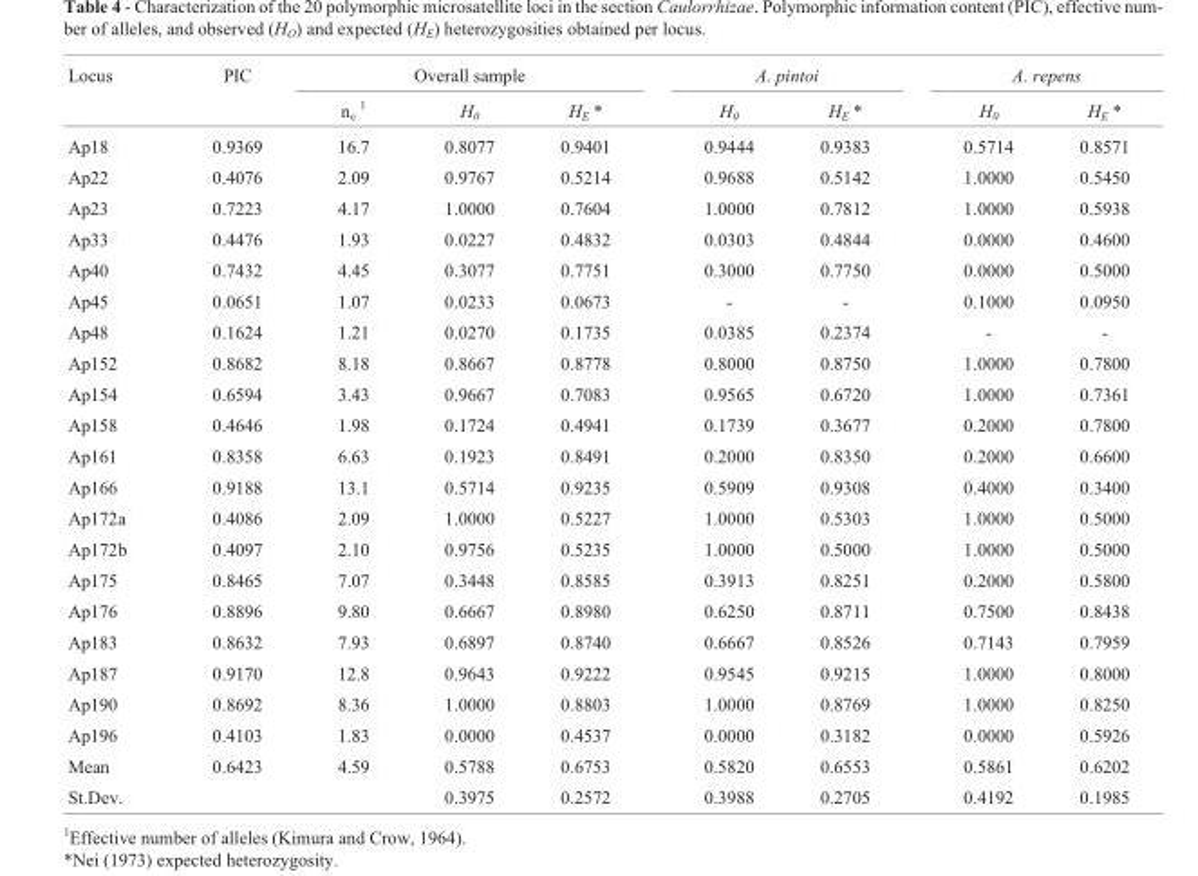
<table><thead><tr><td rowspan="2">Locus</td><td rowspan="2">PIC</td><td colspan="3">Overall sample</td><td colspan="2">A. pintoi</td><td colspan="2">A. repens</td></tr><tr><td>n<sub>e</sub> <sup>1</sup></td><td>H<sub>0</sub></td><td>H<sub>E</sub> *</td><td>H<sub>0</sub></td><td>H<sub>E</sub> *</td><td>H<sub>0</sub></td><td>H<sub>E</sub> *</td></tr></thead><tbody><tr><td>Ap18</td><td>0.9369</td><td>16.7</td><td>0.8077</td><td>0.9401</td><td>0.9444</td><td>0.9383</td><td>0.5714</td><td>0.8571</td></tr><tr><td>Ap22</td><td>0.4076</td><td>2.09</td><td>0.9767</td><td>0.5214</td><td>0.9688</td><td>0.5142</td><td>1.0000</td><td>0.5450</td></tr><tr><td>Ap23</td><td>0.7223</td><td>4.17</td><td>1.0000</td><td>0.7604</td><td>1.0000</td><td>0.7812</td><td>1.0000</td><td>0.5938</td></tr><tr><td>Ap33</td><td>0.4476</td><td>1.93</td><td>0.0227</td><td>0.4832</td><td>0.0303</td><td>0.4844</td><td>0.0000</td><td>0.4600</td></tr><tr><td>Ap40</td><td>0.7432</td><td>4.45</td><td>0.3077</td><td>0.7751</td><td>0.3000</td><td>0.7750</td><td>0.0000</td><td>0.5000</td></tr><tr><td>Ap45</td><td>0.0651</td><td>1.07</td><td>0.0233</td><td>0.0673</td><td>-</td><td>-</td><td>0.1000</td><td>0.0950</td></tr><tr><td>Ap48</td><td>0.1624</td><td>1.21</td><td>0.0270</td><td>0.1735</td><td>0.0385</td><td>0.2374</td><td>-</td><td>-</td></tr><tr><td>Ap152</td><td>0.8682</td><td>8.18</td><td>0.8667</td><td>0.8778</td><td>0.8000</td><td>0.8750</td><td>1.0000</td><td>0.7800</td></tr><tr><td>Ap154</td><td>0.6594</td><td>3.43</td><td>0.9667</td><td>0.7083</td><td>0.9565</td><td>0.6720</td><td>1.0000</td><td>0.7361</td></tr><tr><td>Ap158</td><td>0.4646</td><td>1.98</td><td>0.1724</td><td>0.4941</td><td>0.1739</td><td>0.3677</td><td>0.2000</td><td>0.7800</td></tr><tr><td>Ap161</td><td>0.8358</td><td>6.63</td><td>0.1923</td><td>0.8491</td><td>0.2000</td><td>0.8350</td><td>0.2000</td><td>0.6600</td></tr><tr><td>Ap166</td><td>0.9188</td><td>13.1</td><td>0.5714</td><td>0.9235</td><td>0.5909</td><td>0.9308</td><td>0.4000</td><td>0.3400</td></tr><tr><td>Ap172a</td><td>0.4086</td><td>2.09</td><td>1.0000</td><td>0.5227</td><td>1.0000</td><td>0.5303</td><td>1.0000</td><td>0.5000</td></tr><tr><td>Ap172b</td><td>0.4097</td><td>2.10</td><td>0.9756</td><td>0.5235</td><td>1.0000</td><td>0.5000</td><td>1.0000</td><td>0.5000</td></tr><tr><td>Ap175</td><td>0.8465</td><td>7.07</td><td>0.3448</td><td>0.8585</td><td>0.3913</td><td>0.8251</td><td>0.2000</td><td>0.5800</td></tr><tr><td>Ap176</td><td>0.8896</td><td>9.80</td><td>0.6667</td><td>0.8980</td><td>0.6250</td><td>0.8711</td><td>0.7500</td><td>0.8438</td></tr><tr><td>Ap183</td><td>0.8632</td><td>7.93</td><td>0.6897</td><td>0.8740</td><td>0.6667</td><td>0.8526</td><td>0.7143</td><td>0.7959</td></tr><tr><td>Ap187</td><td>0.9170</td><td>12.8</td><td>0.9643</td><td>0.9222</td><td>0.9545</td><td>0.9215</td><td>1.0000</td><td>0.8000</td></tr><tr><td>Ap190</td><td>0.8692</td><td>8.36</td><td>1.0000</td><td>0.8803</td><td>1.0000</td><td>0.8769</td><td>1.0000</td><td>0.8250</td></tr><tr><td>Ap196</td><td>0.4103</td><td>1.83</td><td>0.0000</td><td>0.4537</td><td>0.0000</td><td>0.3182</td><td>0.0000</td><td>0.5926</td></tr><tr><td>Mean</td><td>0.6423</td><td>4.59</td><td>0.5788</td><td>0.6753</td><td>0.5820</td><td>0.6553</td><td>0.5861</td><td>0.6202</td></tr><tr><td>St.Dev.</td><td></td><td></td><td>0.3975</td><td>0.2572</td><td>0.3988</td><td>0.2705</td><td>0.4192</td><td>0.1985</td></tr></tbody></table>